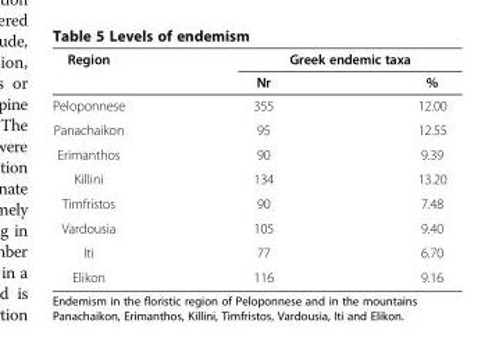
<table><thead><tr><td rowspan="2">Region</td><td colspan="2">Greek endemic taxa</td></tr><tr><td>Nr</td><td>%</td></tr></thead><tbody><tr><td>Peloponnese</td><td>355</td><td>12.00</td></tr><tr><td>Panachaikon</td><td>95</td><td>12.55</td></tr><tr><td>Erimanthos</td><td>90</td><td>9.39</td></tr><tr><td>Killini</td><td>134</td><td>13.20</td></tr><tr><td>Timfristos</td><td>90</td><td>7.48</td></tr><tr><td>Vardousia</td><td>105</td><td>9.40</td></tr><tr><td>Iti</td><td>77</td><td>6.70</td></tr><tr><td>Elikon</td><td>116</td><td>9.16</td></tr></tbody></table>